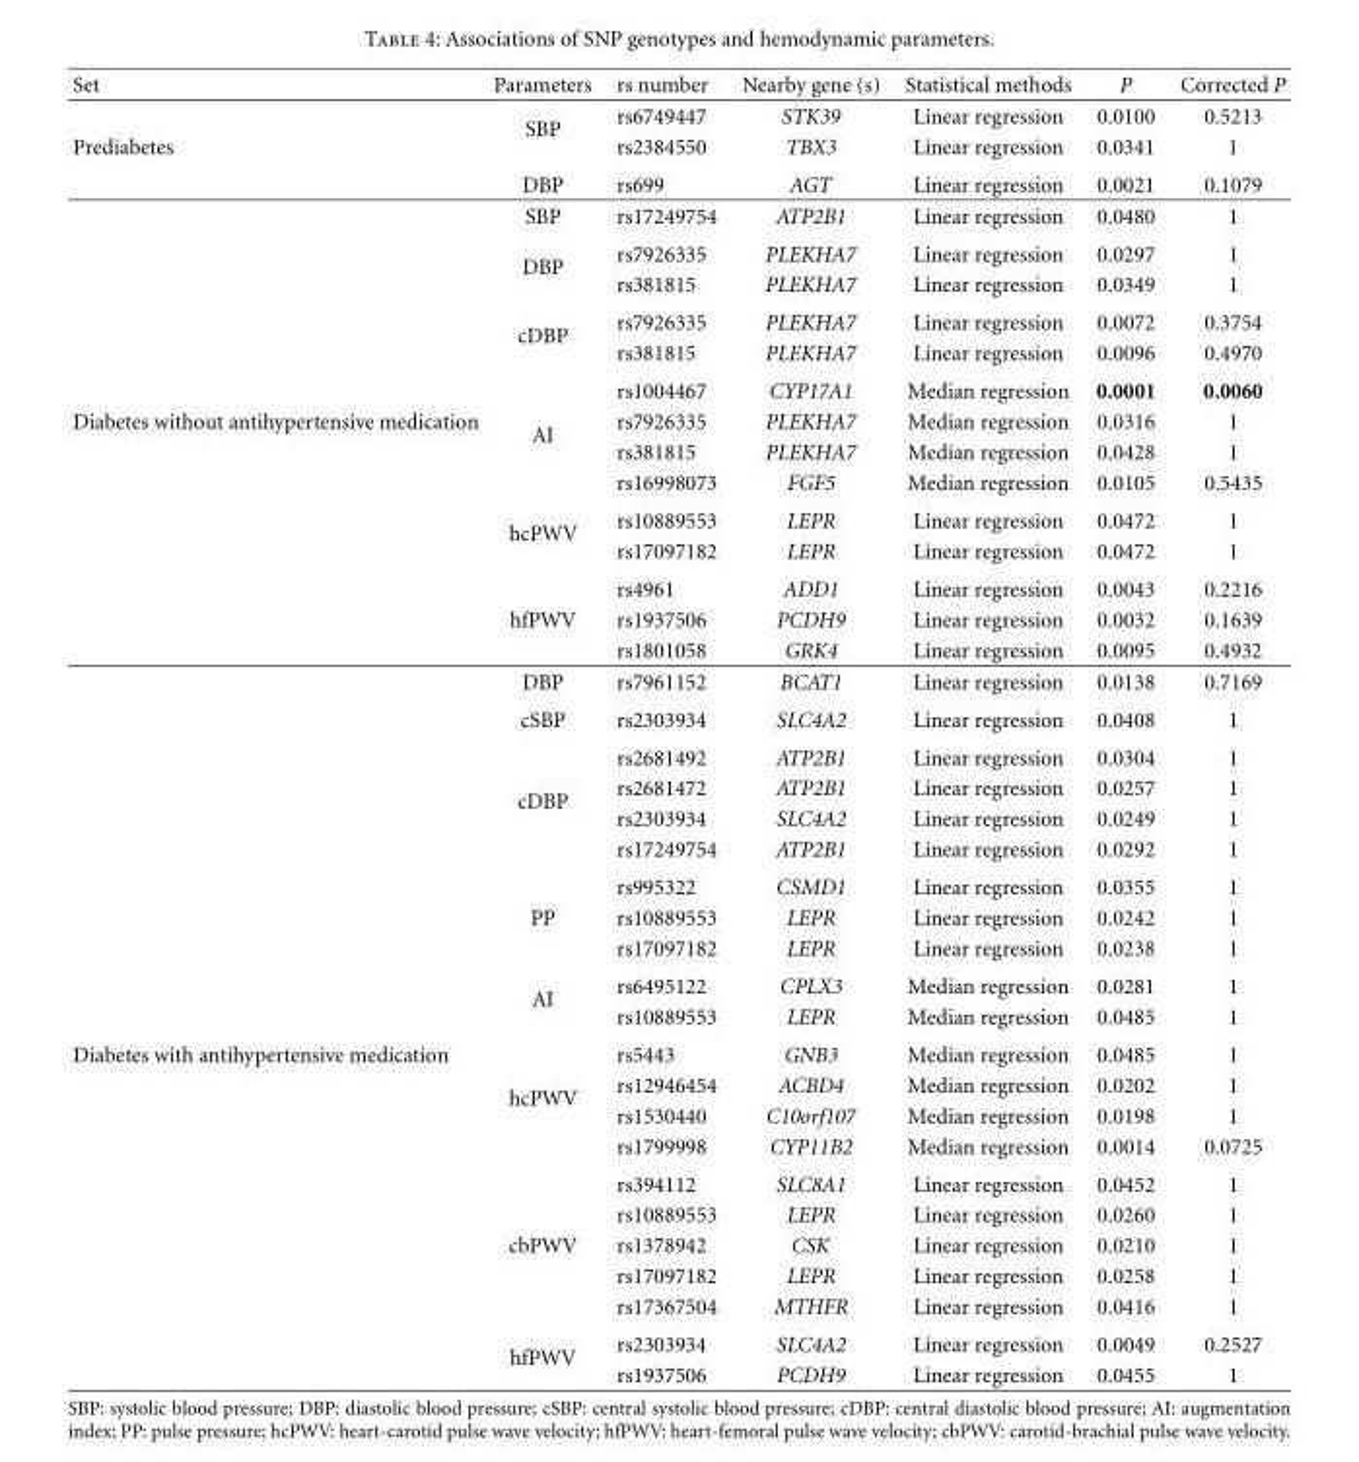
<table><thead><tr><td>Set</td><td>Parameters</td><td>rs number</td><td>Nearby gene (s)</td><td>Statistical methods</td><td>P</td><td>Corrected P</td></tr></thead><tbody><tr><td></td><td rowspan="2">SBP</td><td>rs6749447</td><td>STK39</td><td>Linear regression</td><td>0.0100</td><td>0.5213</td></tr><tr><td rowspan="8">Prediabetes</td><td>rs2384550</td><td>TBX3</td><td>Linear regression</td><td>0.0341</td><td>1</td></tr><tr><td>DBP</td><td>rs699</td><td>AGT</td><td>Linear regression</td><td>0.0021</td><td>0.1079</td></tr><tr><td>SBP</td><td>rs17249754</td><td>ATP2B1</td><td>Linear regression</td><td>0.0480</td><td>1</td></tr><tr><td rowspan="2">DBP</td><td>rs7926335</td><td>PLEKHA7</td><td>Linear regression</td><td>0.0297</td><td>1</td></tr><tr><td>rs381815</td><td>PLEKHA7</td><td>Linear regression</td><td>0.0349</td><td>1</td></tr><tr><td rowspan="2">cDBP</td><td>rs7926335</td><td>PLEKHA7</td><td>Linear regression</td><td>0.0072</td><td>0.3754</td></tr><tr><td>rs381815</td><td>PLEKHA7</td><td>Linear regression</td><td>0.0096</td><td>0.4970</td></tr><tr><td></td><td>rs1004467</td><td>CYP17A1</td><td>Median regression</td><td>0.0001</td><td>0.0060</td></tr><tr><td rowspan="19">Diabetes without antihypertensive medication</td><td rowspan="2">AI</td><td>rs7926335</td><td>PLEKHA7</td><td>Median regression</td><td>0.0316</td><td>1</td></tr><tr><td>rs381815</td><td>PLEKHA7</td><td>Median regression</td><td>0.0428</td><td>1</td></tr><tr><td></td><td>rs16998073</td><td>FGF5</td><td>Median regression</td><td>0.0105</td><td>0.5435</td></tr><tr><td rowspan="2">hcPWV</td><td>rs10889553</td><td>LEPR</td><td>Linear regression</td><td>0.0472</td><td>1</td></tr><tr><td>rs17097182</td><td>LEPR</td><td>Linear regression</td><td>0.0472</td><td>1</td></tr><tr><td></td><td>rs4961</td><td>ADD1</td><td>Linear regression</td><td>0.0043</td><td>0.2216</td></tr><tr><td>hfPWV</td><td>rs1937506</td><td>PCDH9</td><td>Linear regression</td><td>0.0032</td><td>0.1639</td></tr><tr><td></td><td>rs1801058</td><td>GRK4</td><td>Linear regression</td><td>0.0095</td><td>0.4932</td></tr><tr><td>DBP</td><td>rs7961152</td><td>BCAT1</td><td>Linear regression</td><td>0.0138</td><td>0.7169</td></tr><tr><td>cSBP</td><td>rs2303934</td><td>SLC4A2</td><td>Linear regression</td><td>0.0408</td><td>1</td></tr><tr><td></td><td>rs2681492</td><td>ATP2B1</td><td>Linear regression</td><td>0.0304</td><td>1</td></tr><tr><td rowspan="2">cDBP</td><td>rs2681472</td><td>ATP2B1</td><td>Linear regression</td><td>0.0257</td><td>1</td></tr><tr><td>rs2303934</td><td>SLC4A2</td><td>Linear regression</td><td>0.0249</td><td>1</td></tr><tr><td></td><td>rs17249754</td><td>ATP2B1</td><td>Linear regression</td><td>0.0292</td><td>1</td></tr><tr><td></td><td>rs995322</td><td>CSMD1</td><td>Linear regression</td><td>0.0355</td><td>1</td></tr><tr><td>PP</td><td>rs10889553</td><td>LEPR</td><td>Linear regression</td><td>0.0242</td><td>1</td></tr><tr><td></td><td>rs17097182</td><td>LEPR</td><td>Linear regression</td><td>0.0238</td><td>1</td></tr><tr><td rowspan="2">AI</td><td>rs6495122</td><td>CPLX3</td><td>Median regression</td><td>0.0281</td><td>1</td></tr><tr><td>rs10889553</td><td>LEPR</td><td>Median regression</td><td>0.0485</td><td>1</td></tr><tr><td rowspan="11">Diabetes with antihypertensive medication</td><td></td><td>rs5443</td><td>GNB3</td><td>Median regression</td><td>0.0485</td><td>1</td></tr><tr><td rowspan="2">hcPWV</td><td>rs12946454</td><td>ACBD4</td><td>Median regression</td><td>0.0202</td><td>1</td></tr><tr><td>rs1530440</td><td>C10orf107</td><td>Median regression</td><td>0.0198</td><td>1</td></tr><tr><td></td><td>rs1799998</td><td>CYP11B2</td><td>Median regression</td><td>0.0014</td><td>0.0725</td></tr><tr><td></td><td>rs394112</td><td>SLC8A1</td><td>Linear regression</td><td>0.0452</td><td>1</td></tr><tr><td></td><td>rs10889553</td><td>LEPR</td><td>Linear regression</td><td>0.0260</td><td>1</td></tr><tr><td>cbPWV</td><td>rs1378942</td><td>CSK</td><td>Linear regression</td><td>0.0210</td><td>1</td></tr><tr><td></td><td>rs17097182</td><td>LEPR</td><td>Linear regression</td><td>0.0258</td><td>1</td></tr><tr><td></td><td>rs17367504</td><td>MTHFR</td><td>Linear regression</td><td>0.0416</td><td>1</td></tr><tr><td rowspan="2">hfPWV</td><td>rs2303934</td><td>SLC4A2</td><td>Linear regression</td><td>0.0049</td><td>0.2527</td></tr><tr><td>rs1937506</td><td>PCDH9</td><td>Linear regression</td><td>0.0455</td><td>1</td></tr></tbody></table>